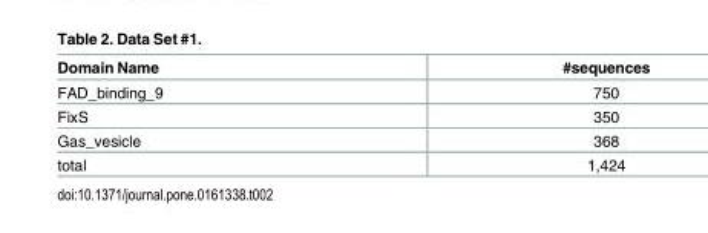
<table><thead><tr><td>Domain Name</td><td>#sequences</td></tr></thead><tbody><tr><td>FAD_binding_9</td><td>750</td></tr><tr><td>FixS</td><td>350</td></tr><tr><td>Gas_vesicle</td><td>368</td></tr><tr><td>total</td><td>1,424</td></tr></tbody></table>